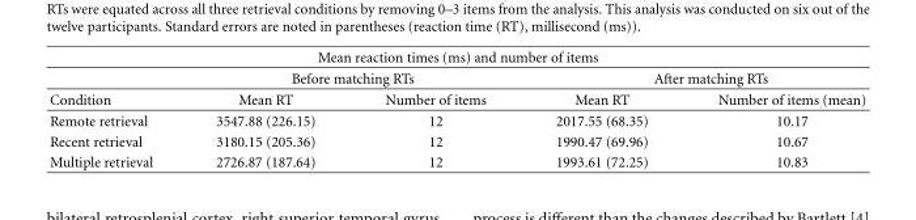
<table><thead><tr><td colspan="5">Mean reaction times (ms) and number of items</td></tr><tr><td rowspan="2">Condition</td><td colspan="2">Before matching RTs</td><td colspan="2">After matching RTs</td></tr><tr><td>Mean RT</td><td>Number of items</td><td>Mean RT</td><td>Number of items (mean)</td></tr></thead><tbody><tr><td>Remote retrieval</td><td>3547.88 (226.15)</td><td>12</td><td>2017.55 (68.35)</td><td>10.17</td></tr><tr><td>Recent retrieval</td><td>3180.15 (205.36)</td><td>12</td><td>1990.47 (69.96)</td><td>10.67</td></tr><tr><td>Multiple retrieval</td><td>2726.87 (187.64)</td><td>12</td><td>1993.61 (72.25)</td><td>10.83</td></tr></tbody></table>